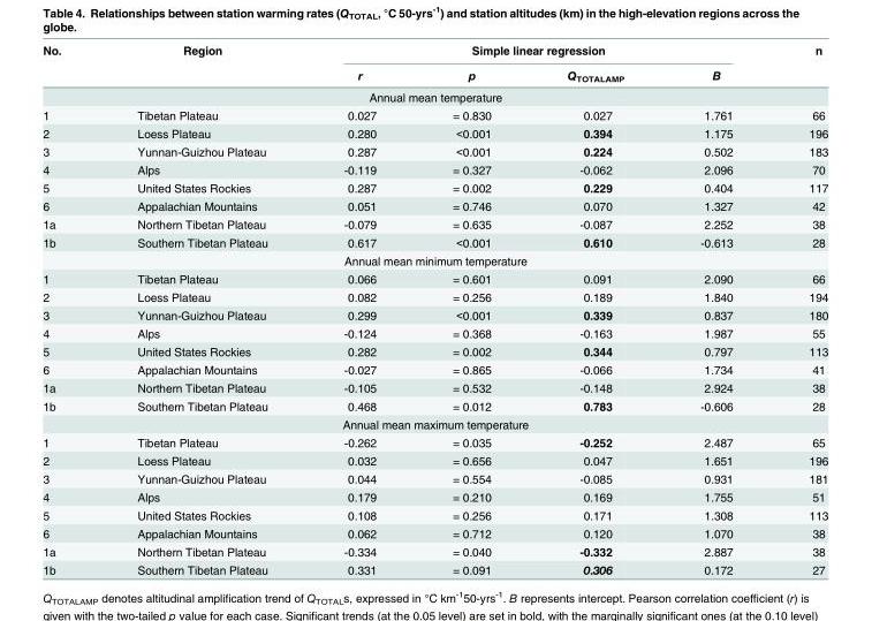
<table><thead><tr><td rowspan="2">No.</td><td rowspan="2">Region</td><td colspan="4">Simple linear regression</td><td rowspan="2">n</td></tr><tr><td>r</td><td>p</td><td>Q<sub>TOTALAMP</sub></td><td>B</td></tr></thead><tbody><tr><td colspan="7">Annual mean temperature</td></tr><tr><td>1</td><td>Tibetan Plateau</td><td>0.027</td><td>= 0.830</td><td>0.027</td><td>1.761</td><td>66</td></tr><tr><td>2</td><td>Loess Plateau</td><td>0.280</td><td>&lt;0.001</td><td>0.394</td><td>1.175</td><td>196</td></tr><tr><td>3</td><td>Yunnan-Guizhou Plateau</td><td>0.287</td><td>&lt;0.001</td><td>0.224</td><td>0.502</td><td>183</td></tr><tr><td>4</td><td>Alps</td><td>-0.119</td><td>= 0.327</td><td>-0.062</td><td>2.096</td><td>70</td></tr><tr><td>5</td><td>United States Rockies</td><td>0.287</td><td>= 0.002</td><td>0.229</td><td>0.404</td><td>117</td></tr><tr><td>6</td><td>Appalachian Mountains</td><td>0.051</td><td>= 0.746</td><td>0.070</td><td>1.327</td><td>42</td></tr><tr><td>1a</td><td>Northern Tibetan Plateau</td><td>-0.079</td><td>= 0.635</td><td>-0.087</td><td>2.252</td><td>38</td></tr><tr><td>1b</td><td>Southern Tibetan Plateau</td><td>0.617</td><td>&lt;0.001</td><td>0.610</td><td>-0.613</td><td>28</td></tr><tr><td colspan="7">Annual mean minimum temperature</td></tr><tr><td>1</td><td>Tibetan Plateau</td><td>0.066</td><td>= 0.601</td><td>0.091</td><td>2.090</td><td>66</td></tr><tr><td>2</td><td>Loess Plateau</td><td>0.082</td><td>= 0.256</td><td>0.189</td><td>1.840</td><td>194</td></tr><tr><td>3</td><td>Yunnan-Guizhou Plateau</td><td>0.299</td><td>&lt;0.001</td><td>0.339</td><td>0.837</td><td>180</td></tr><tr><td>4</td><td>Alps</td><td>-0.124</td><td>= 0.368</td><td>-0.163</td><td>1.987</td><td>55</td></tr><tr><td>5</td><td>United States Rockies</td><td>0.282</td><td>= 0.002</td><td>0.344</td><td>0.797</td><td>113</td></tr><tr><td>6</td><td>Appalachian Mountains</td><td>-0.027</td><td>= 0.865</td><td>-0.066</td><td>1.734</td><td>41</td></tr><tr><td>1a</td><td>Northern Tibetan Plateau</td><td>-0.105</td><td>= 0.532</td><td>-0.148</td><td>2.924</td><td>38</td></tr><tr><td>1b</td><td>Southern Tibetan Plateau</td><td>0.468</td><td>= 0.012</td><td>0.783</td><td>-0.606</td><td>28</td></tr><tr><td colspan="7">Annual mean maximum temperature</td></tr><tr><td>1</td><td>Tibetan Plateau</td><td>-0.262</td><td>= 0.035</td><td>-0.252</td><td>2.487</td><td>65</td></tr><tr><td>2</td><td>Loess Plateau</td><td>0.032</td><td>= 0.656</td><td>0.047</td><td>1.651</td><td>196</td></tr><tr><td>3</td><td>Yunnan-Guizhou Plateau</td><td>0.044</td><td>= 0.554</td><td>-0.085</td><td>0.931</td><td>181</td></tr><tr><td>4</td><td>Alps</td><td>0.179</td><td>= 0.210</td><td>0.169</td><td>1.755</td><td>51</td></tr><tr><td>5</td><td>United States Rockies</td><td>0.108</td><td>= 0.256</td><td>0.171</td><td>1.308</td><td>113</td></tr><tr><td>6</td><td>Appalachian Mountains</td><td>0.062</td><td>= 0.712</td><td>0.120</td><td>1.070</td><td>38</td></tr><tr><td>1a</td><td>Northern Tibetan Plateau</td><td>-0.334</td><td>= 0.040</td><td>-0.332</td><td>2.887</td><td>38</td></tr><tr><td>1b</td><td>Southern Tibetan Plateau</td><td>0.331</td><td>= 0.091</td><td>0.306</td><td>0.172</td><td>27</td></tr></tbody></table>